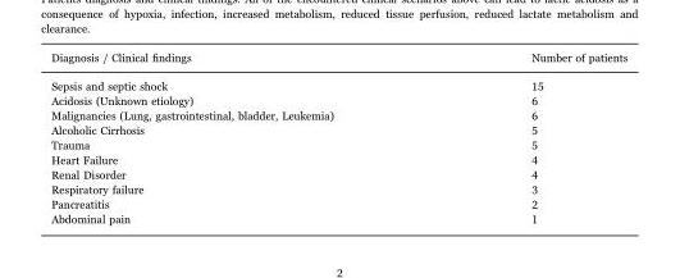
<table><thead><tr><td>Diagnosis / Clinical findings</td><td>Number of patients</td></tr></thead><tbody><tr><td>Sepsis and septic shock</td><td>15</td></tr><tr><td>Acidosis (Unknown etiology)</td><td>6</td></tr><tr><td>Malignancies (Lung, gastrointestinal, bladder, Leukemia)</td><td>6</td></tr><tr><td>Alcoholic Cirrhosis</td><td>5</td></tr><tr><td>Trauma</td><td>5</td></tr><tr><td>Heart Failure</td><td>4</td></tr><tr><td>Renal Disorder</td><td>4</td></tr><tr><td>Respiratory failure</td><td>3</td></tr><tr><td>Pancreatitis</td><td>2</td></tr><tr><td>Abdominal pain</td><td>1</td></tr></tbody></table>